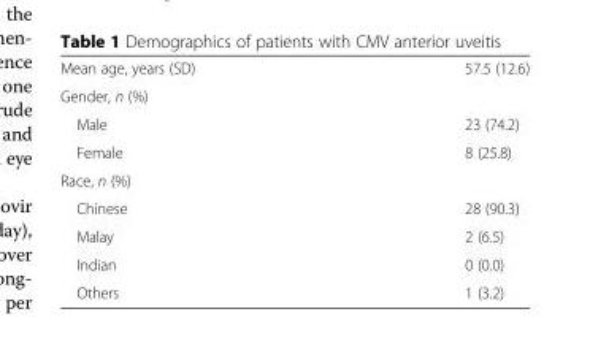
<table><tbody><tr><td>Mean age, years (SD)</td><td>57.5 (12.6)</td></tr><tr><td colspan="2">Gender, n (%)</td></tr><tr><td>Male</td><td>23 (74.2)</td></tr><tr><td>Female</td><td>8 (25.8)</td></tr><tr><td colspan="2">Race, n (%)</td></tr><tr><td>Chinese</td><td>28 (90.3)</td></tr><tr><td>Malay</td><td>2 (6.5)</td></tr><tr><td>Indian</td><td>0 (0.0)</td></tr><tr><td>Others</td><td>1 (3.2)</td></tr></tbody></table>